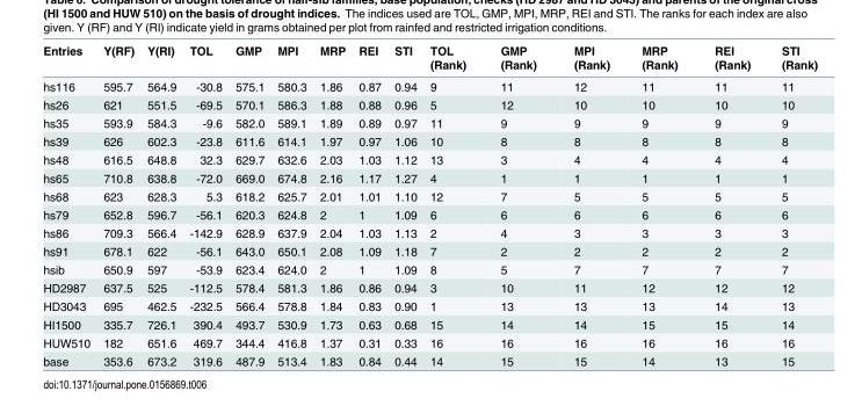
<table><thead><tr><td>Entries</td><td>Y(RF)</td><td>Y(RI)</td><td>TOL</td><td>GMP</td><td>MPI</td><td>MRP</td><td>REI</td><td>STI</td><td>TOL (Rank)</td><td>GMP (Rank)</td><td>MPI (Rank)</td><td>MRP (Rank)</td><td>REI (Rank)</td><td>STI (Rank)</td></tr></thead><tbody><tr><td>hs116</td><td>595.7</td><td>564.9</td><td>-30.8</td><td>575.1</td><td>580.3</td><td>1.86</td><td>0.87</td><td>0.94</td><td>9</td><td>11</td><td>12</td><td>11</td><td>11</td><td>11</td></tr><tr><td>hs26</td><td>621</td><td>551.5</td><td>-69.5</td><td>570.1</td><td>586.3</td><td>1.88</td><td>0.88</td><td>0.96</td><td>5</td><td>12</td><td>10</td><td>10</td><td>10</td><td>10</td></tr><tr><td>hs35</td><td>593.9</td><td>584.3</td><td>-9.6</td><td>582.0</td><td>589.1</td><td>1.89</td><td>0.89</td><td>0.97</td><td>11</td><td>9</td><td>9</td><td>9</td><td>9</td><td>9</td></tr><tr><td>hs39</td><td>626</td><td>602.3</td><td>-23.8</td><td>611.6</td><td>614.1</td><td>1.97</td><td>0.97</td><td>1.06</td><td>10</td><td>8</td><td>8</td><td>8</td><td>8</td><td>8</td></tr><tr><td>hs48</td><td>616.5</td><td>648.8</td><td>32.3</td><td>629.7</td><td>632.6</td><td>2.03</td><td>1.03</td><td>1.12</td><td>13</td><td>3</td><td>4</td><td>4</td><td>4</td><td>4</td></tr><tr><td>hs65</td><td>710.8</td><td>638.8</td><td>-72.0</td><td>669.0</td><td>674.8</td><td>2.16</td><td>1.17</td><td>1.27</td><td>4</td><td>1</td><td>1</td><td>1</td><td>1</td><td>1</td></tr><tr><td>hs68</td><td>623</td><td>628.3</td><td>5.3</td><td>618.2</td><td>625.7</td><td>2.01</td><td>1.01</td><td>1.10</td><td>12</td><td>7</td><td>5</td><td>5</td><td>5</td><td>5</td></tr><tr><td>hs79</td><td>652.8</td><td>596.7</td><td>-56.1</td><td>620.3</td><td>624.8</td><td>2</td><td>1</td><td>1.09</td><td>6</td><td>6</td><td>6</td><td>6</td><td>6</td><td>6</td></tr><tr><td>hs86</td><td>709.3</td><td>566.4</td><td>-142.9</td><td>628.9</td><td>637.9</td><td>2.04</td><td>1.03</td><td>1.13</td><td>2</td><td>4</td><td>3</td><td>3</td><td>3</td><td>3</td></tr><tr><td>hs91</td><td>678.1</td><td>622</td><td>-56.1</td><td>643.0</td><td>650.1</td><td>2.08</td><td>1.09</td><td>1.18</td><td>7</td><td>2</td><td>2</td><td>2</td><td>2</td><td>2</td></tr><tr><td>hsib</td><td>650.9</td><td>597</td><td>-53.9</td><td>623.4</td><td>624.0</td><td>2</td><td>1</td><td>1.09</td><td>8</td><td>5</td><td>7</td><td>7</td><td>7</td><td>7</td></tr><tr><td>HD2987</td><td>637.5</td><td>525</td><td>-112.5</td><td>578.4</td><td>581.3</td><td>1.86</td><td>0.86</td><td>0.94</td><td>3</td><td>10</td><td>11</td><td>12</td><td>12</td><td>12</td></tr><tr><td>HD3043</td><td>695</td><td>462.5</td><td>-232.5</td><td>566.4</td><td>578.8</td><td>1.84</td><td>0.83</td><td>0.90</td><td>1</td><td>13</td><td>13</td><td>13</td><td>14</td><td>13</td></tr><tr><td>HI1500</td><td>335.7</td><td>726.1</td><td>390.4</td><td>493.7</td><td>530.9</td><td>1.73</td><td>0.63</td><td>0.68</td><td>15</td><td>14</td><td>14</td><td>15</td><td>15</td><td>14</td></tr><tr><td>HUW510</td><td>182</td><td>651.6</td><td>469.7</td><td>344.4</td><td>416.8</td><td>1.37</td><td>0.31</td><td>0.33</td><td>16</td><td>16</td><td>16</td><td>16</td><td>16</td><td>16</td></tr><tr><td>base</td><td>353.6</td><td>673.2</td><td>319.6</td><td>487.9</td><td>513.4</td><td>1.83</td><td>0.84</td><td>0.44</td><td>14</td><td>15</td><td>15</td><td>14</td><td>13</td><td>15</td></tr></tbody></table>